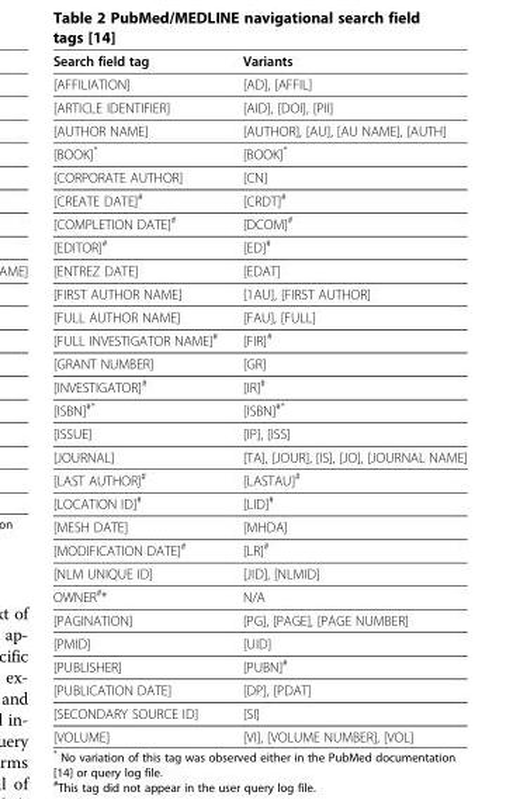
<table><thead><tr><td>Search field tag</td><td>Variants</td></tr></thead><tbody><tr><td>[AFFILIATION]</td><td>[AD], [AFFIL]</td></tr><tr><td>[ARTICLE IDENTIFIER]</td><td>[AID], [DOI], [PII]</td></tr><tr><td>[AUTHOR NAME]</td><td>[AUTHOR], [AU], [AU NAME], [AUTH]</td></tr><tr><td>[BOOK]*</td><td>[BOOK]*</td></tr><tr><td>[CORPORATE AUTHOR]</td><td>[CN]</td></tr><tr><td>[CREATE DATE]<sup>#</sup></td><td>[CRDT]<sup>#</sup></td></tr><tr><td>[COMPLETION DATE]<sup>#</sup></td><td>[DCOM]<sup>#</sup></td></tr><tr><td>[EDITOR]<sup>#</sup></td><td>[ED]<sup>#</sup></td></tr><tr><td>[ENTREZ DATE]</td><td>[EDAT]</td></tr><tr><td>[FIRST AUTHOR NAME]</td><td>[1AU], [FIRST AUTHOR]</td></tr><tr><td>[FULL AUTHOR NAME]</td><td>[FAU], [FULL]</td></tr><tr><td>[FULL INVESTIGATOR NAME]<sup>#</sup></td><td>[FIR]<sup>#</sup></td></tr><tr><td>[GRANT NUMBER]</td><td>[GR]</td></tr><tr><td>[INVESTIGATOR]<sup>#</sup></td><td>[IR]<sup>#</sup></td></tr><tr><td>[ISBN]<sup>#*</sup></td><td>[ISBN]<sup>#*</sup></td></tr><tr><td>[ISSUE]</td><td>[IP], [ISS]</td></tr><tr><td>[JOURNAL]</td><td>[TA], [JOUR], [IS], [JO], [JOURNAL NAME]</td></tr><tr><td>[LAST AUTHOR]<sup>#</sup></td><td>[LASTAU]<sup>#</sup></td></tr><tr><td>[LOCATION ID]<sup>#</sup></td><td>[LID]<sup>#</sup></td></tr><tr><td>[MESH DATE]</td><td>[MHDA]</td></tr><tr><td>[MODIFICATION DATE]<sup>#</sup></td><td>[LR]<sup>#</sup></td></tr><tr><td>[NLM UNIQUE ID]</td><td>[JID], [NLMID]</td></tr><tr><td>OWNER<sup>#</sup>*</td><td>N/A</td></tr><tr><td>[PAGINATION]</td><td>[PG], [PAGE], [PAGE NUMBER]</td></tr><tr><td>[PMID]</td><td>[UID]</td></tr><tr><td>[PUBLISHER]</td><td>[PUBN]<sup>#</sup></td></tr><tr><td>[PUBLICATION DATE]</td><td>[DP], [PDAT]</td></tr><tr><td>[SECONDARY SOURCE ID]</td><td>[SI]</td></tr><tr><td>[VOLUME]</td><td>[VI], [VOLUME NUMBER], [VOL]</td></tr></tbody></table>